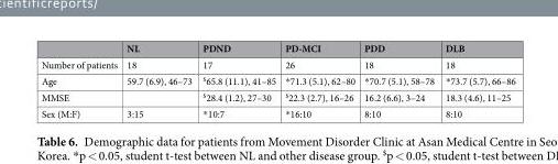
<table><thead><tr><td></td><td>NL</td><td>PDND</td><td>PD-MCI</td><td>PDD</td><td>DLB</td></tr></thead><tbody><tr><td>Number of patients</td><td>18</td><td>17</td><td>26</td><td>18</td><td>18</td></tr><tr><td>Age</td><td>59.7 (6.9), 46–73</td><td><sup>$</sup>65.8 (11.1), 41–85</td><td>*71.3 (5.1), 62–80</td><td>*70.7 (5.1), 58–78</td><td>*73.7 (5.7), 66–86</td></tr><tr><td>MMSE</td><td></td><td><sup>$</sup>28.4 (1.2), 27–30</td><td><sup>$</sup>22.3 (2.7), 16–26</td><td>16.2 (6.6), 3–24</td><td>18.3 (4.6), 11–25</td></tr><tr><td>Sex (M:F)</td><td>3:15</td><td>*10:7</td><td>*16:10</td><td>8:10</td><td>8:10</td></tr></tbody></table>